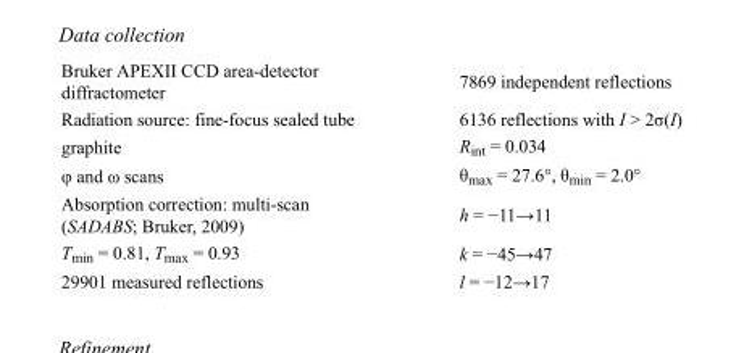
<table><tbody><tr><td>Bruker APEXII CCD area-detector diffractometer</td><td>7869 independent reflections</td></tr><tr><td>Radiation source: fine-focus sealed tube</td><td>6136 reflections with I &gt; 2σ(I)</td></tr><tr><td>graphite</td><td>R<sub>int</sub> = 0.034</td></tr><tr><td>φ and ω scans</td><td>θ<sub>max</sub> = 27.6°, θ<sub>min</sub> = 2.0°</td></tr><tr><td>Absorption correction: multi-scan (SADABS; Bruker, 2009)</td><td>h = −11→11</td></tr><tr><td>T<sub>min</sub> = 0.81, T<sub>max</sub> = 0.93</td><td>k = −45→47</td></tr><tr><td>29901 measured reflections</td><td>l = −12→17</td></tr></tbody></table>